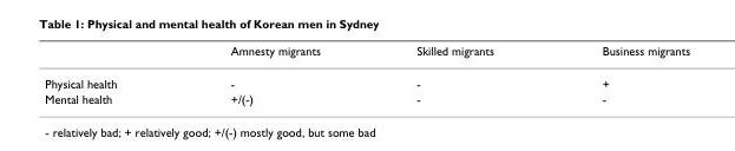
<table><thead><tr><td></td><td>Amnesty migrants</td><td>Skilled migrants</td><td>Business migrants</td></tr></thead><tbody><tr><td>Physical health</td><td>-</td><td>-</td><td>+</td></tr><tr><td>Mental health</td><td>+/(-)</td><td>-</td><td>-</td></tr></tbody></table>